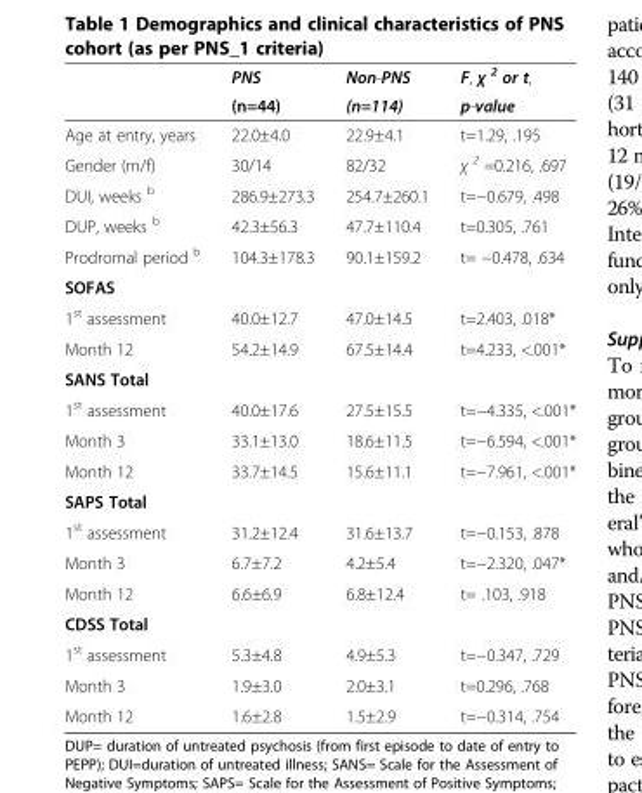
<table><thead><tr><td rowspan="2"></td><td rowspan="2">PNS (n=44)</td><td rowspan="2">Non-PNS (n=114)</td><td rowspan="2">F, χ <sup>2</sup> or t, p-value</td></tr><tr></tr></thead><tbody><tr><td>Age at entry, years</td><td>22.0±4.0</td><td>22.9±4.1</td><td>t=1.29, .195</td></tr><tr><td>Gender (m/f)</td><td>30/14</td><td>82/32</td><td>χ <sup>2</sup> =0.216, .697</td></tr><tr><td>DUI, weeks <sup>b</sup></td><td>286.9±273.3</td><td>254.7±260.1</td><td>t=−0.679, .498</td></tr><tr><td>DUP, weeks <sup>b</sup></td><td>42.3±56.3</td><td>47.7±110.4</td><td>t=0.305, .761</td></tr><tr><td>Prodromal period <sup>b</sup></td><td>104.3±178.3</td><td>90.1±159.2</td><td>t= −0.478, .634</td></tr><tr><td colspan="4">SOFAS</td></tr><tr><td>1<sup>st</sup> assessment</td><td>40.0±12.7</td><td>47.0±14.5</td><td>t=2.403, .018*</td></tr><tr><td>Month 12</td><td>54.2±14.9</td><td>67.5±14.4</td><td>t=4.233, &lt;.001*</td></tr><tr><td colspan="4">SANS Total</td></tr><tr><td>1<sup>st</sup> assessment</td><td>40.0±17.6</td><td>27.5±15.5</td><td>t=−4.335, &lt;.001*</td></tr><tr><td>Month 3</td><td>33.1±13.0</td><td>18.6±11.5</td><td>t=−6.594, &lt;.001*</td></tr><tr><td>Month 12</td><td>33.7±14.5</td><td>15.6±11.1</td><td>t=−7.961, &lt;.001*</td></tr><tr><td colspan="4">SAPS Total</td></tr><tr><td>1<sup>st</sup> assessment</td><td>31.2±12.4</td><td>31.6±13.7</td><td>t=−0.153, .878</td></tr><tr><td>Month 3</td><td>6.7±7.2</td><td>4.2±5.4</td><td>t=−2.320, .047*</td></tr><tr><td>Month 12</td><td>6.6±6.9</td><td>6.8±12.4</td><td>t= .103, .918</td></tr><tr><td colspan="4">CDSS Total</td></tr><tr><td>1<sup>st</sup> assessment</td><td>5.3±4.8</td><td>4.9±5.3</td><td>t=−0.347, .729</td></tr><tr><td>Month 3</td><td>1.9±3.0</td><td>2.0±3.1</td><td>t=0.296, .768</td></tr><tr><td>Month 12</td><td>1.6±2.8</td><td>1.5±2.9</td><td>t=−0.314, .754</td></tr></tbody></table>